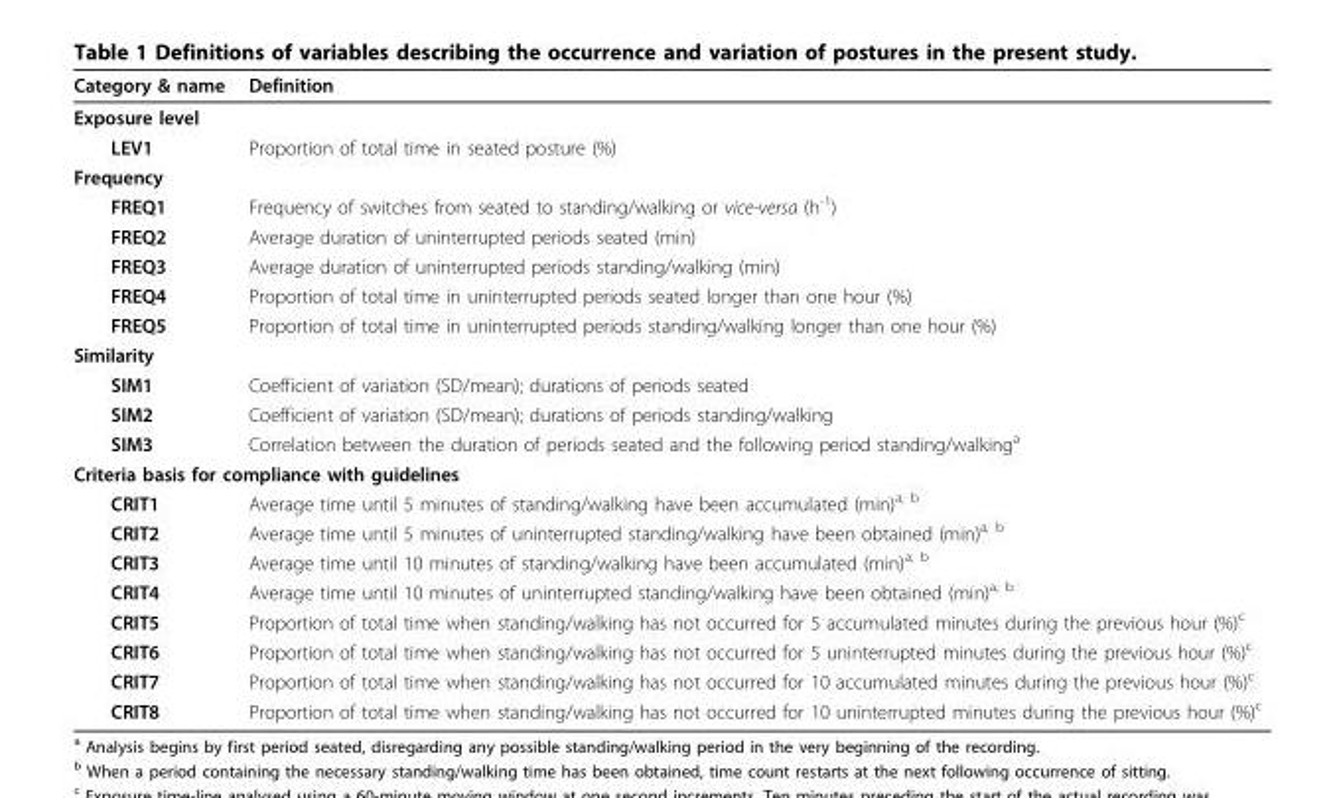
<table><thead><tr><td>Category &amp; name</td><td>Definition</td></tr></thead><tbody><tr><td colspan="2">Exposure level</td></tr><tr><td>LEV1</td><td>Proportion of total time in seated posture (%)</td></tr><tr><td colspan="2">Frequency</td></tr><tr><td>FREQ1</td><td>Frequency of switches from seated to standing/walking or vice-versa (h<sup>-1</sup>)</td></tr><tr><td>FREQ2</td><td>Average duration of uninterrupted periods seated (min)</td></tr><tr><td>FREQ3</td><td>Average duration of uninterrupted periods standing/walking (min)</td></tr><tr><td>FREQ4</td><td>Proportion of total time in uninterrupted periods seated longer than one hour (%)</td></tr><tr><td>FREQ5</td><td>Proportion of total time in uninterrupted periods standing/walking longer than one hour (%)</td></tr><tr><td colspan="2">Similarity</td></tr><tr><td>SIM1</td><td>Coefficient of variation (SD/mean); durations of periods seated</td></tr><tr><td>SIM2</td><td>Coefficient of variation (SD/mean); durations of periods standing/walking</td></tr><tr><td>SIM3</td><td>Correlation between the duration of periods seated and the following period standing/walking<sup>a</sup></td></tr><tr><td colspan="2">Criteria basis for compliance with guidelines</td></tr><tr><td>CRIT1</td><td>Average time until 5 minutes of standing/walking have been accumulated (min)<sup>a; b</sup></td></tr><tr><td>CRIT2</td><td>Average time until 5 minutes of uninterrupted standing/walking have been obtained (min)<sup>a; b</sup></td></tr><tr><td>CRIT3</td><td>Average time until 10 minutes of standing/walking have been accumulated (min)<sup>a; b</sup></td></tr><tr><td>CRIT4</td><td>Average time until 10 minutes of uninterrupted standing/walking have been obtained (min)<sup>a; b</sup></td></tr><tr><td>CRIT5</td><td>Proportion of total time when standing/walking has not occurred for 5 accumulated minutes during the previous hour (%)<sup>c</sup></td></tr><tr><td>CRIT6</td><td>Proportion of total time when standing/walking has not occurred for 5 uninterrupted minutes during the previous hour (%)<sup>c</sup></td></tr><tr><td>CRIT7</td><td>Proportion of total time when standing/walking has not occurred for 10 accumulated minutes during the previous hour (%)<sup>c</sup></td></tr><tr><td>CRIT8</td><td>Proportion of total time when standing/walking has not occurred for 10 uninterrupted minutes during the previous hour (%)<sup>c</sup></td></tr></tbody></table>